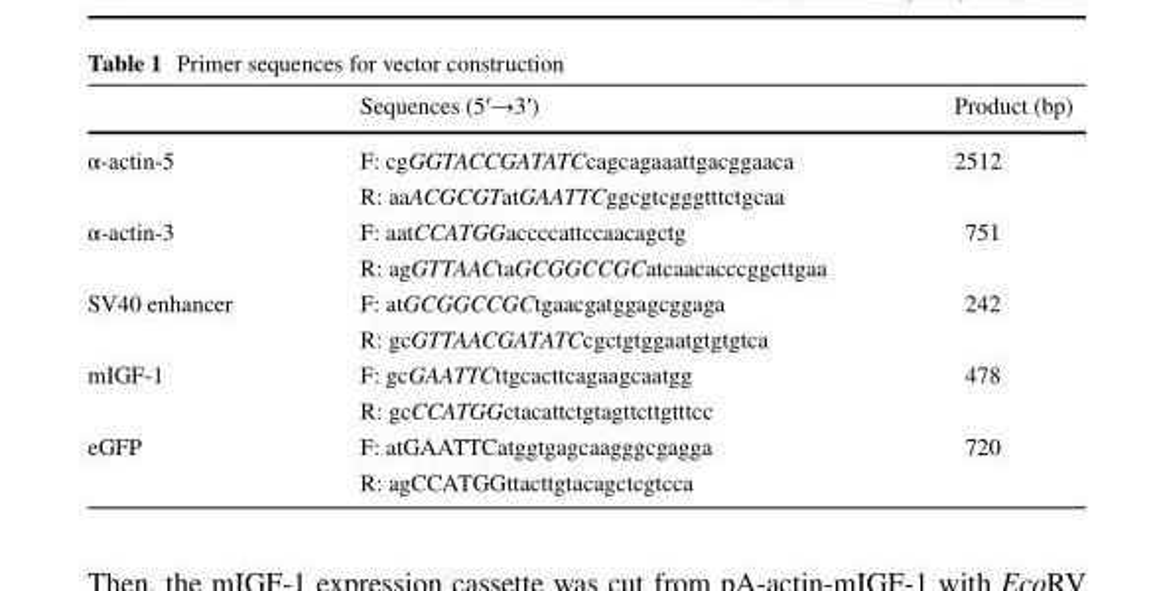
<table><thead><tr><td></td><td>Sequences (5′→3′)</td><td>Product (bp)</td></tr></thead><tbody><tr><td rowspan="2">α-actin-5</td><td>F: cgGGT ACC GAT ATC cagcagaaattgacggaaca</td><td rowspan="2">2512</td></tr><tr><td>R: aaACG CGT atGAA TTC ggcgtcgggtttctgcaa</td></tr><tr><td rowspan="2">α-actin-3</td><td>F: aatCCA TGG accccattccaacagctg</td><td rowspan="2">751</td></tr><tr><td>R: agGTT AAC taGCG GCC GCatcaacacccggcttgaa</td></tr><tr><td rowspan="2">SV40 enhancer</td><td>F: atGCG GCC GCtgaacgatggagcggaga</td><td rowspan="2">242</td></tr><tr><td>R: gcGTT AAC GAT ATC cgctgtggaatgtgtgtca</td></tr><tr><td rowspan="2">mIGF-1</td><td>F: gcGAA TTC ttgcacttcagaagcaatgg</td><td rowspan="2">478</td></tr><tr><td>R: gcCCA TGG ctacattctgtagttcttgtttcc</td></tr><tr><td rowspan="2">eGFP</td><td>F: atGAA TTC atggtgagcaagggcgagga</td><td rowspan="2">720</td></tr><tr><td>R: agCCA TGG ttacttgtacagctcgtcca</td></tr></tbody></table>